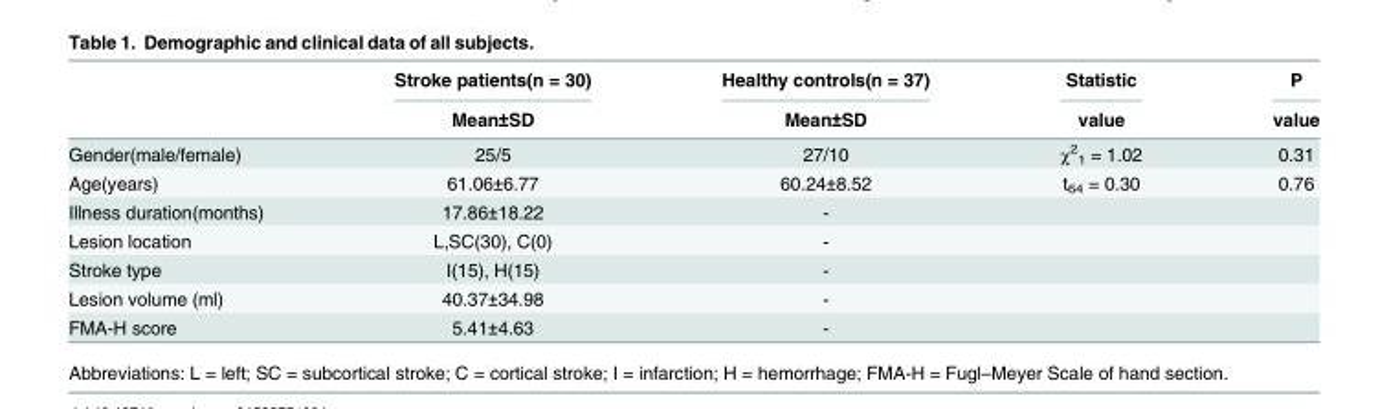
<table><thead><tr><td rowspan="2"></td><td rowspan="2">Stroke patients(n = 30) Mean±SD</td><td rowspan="2">Healthy controls(n = 37) Mean±SD</td><td rowspan="2">Statistic value</td><td rowspan="2">P value</td></tr><tr></tr></thead><tbody><tr><td>Gender(male/female)</td><td>25/5</td><td>27/10</td><td>χ<sup>2</sup> <sub>1</sub> = 1.02</td><td>0.31</td></tr><tr><td>Age(years)</td><td>61.06±6.77</td><td>60.24±8.52</td><td>t<sub>64</sub> = 0.30</td><td>0.76</td></tr><tr><td>Illness duration(months)</td><td>17.86±18.22</td><td>-</td><td></td><td></td></tr><tr><td>Lesion location</td><td>L,SC(30), C(0)</td><td>-</td><td></td><td></td></tr><tr><td>Stroke type</td><td>I(15), H(15)</td><td>-</td><td></td><td></td></tr><tr><td>Lesion volume (ml)</td><td>40.37±34.98</td><td>-</td><td></td><td></td></tr><tr><td>FMA-H score</td><td>5.41±4.63</td><td>-</td><td></td><td></td></tr></tbody></table>